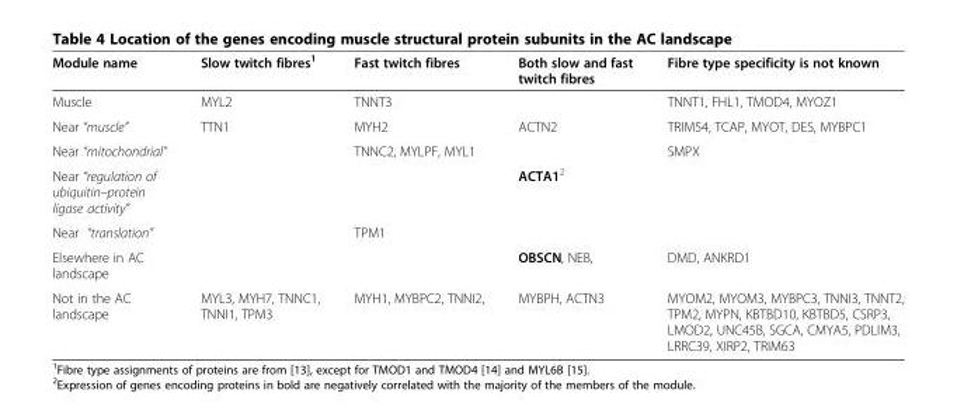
<table><thead><tr><td>Module name</td><td>Slow twitch fibres<sup>1</sup></td><td>Fast twitch fibres</td><td>Both slow and fast twitch fibres</td><td>Fibre type specificity is not known</td></tr></thead><tbody><tr><td>Muscle</td><td>MYL2</td><td>TNNT3</td><td></td><td>TNNT1, FHL1, TMOD4, MYOZ1</td></tr><tr><td>Near “muscle”</td><td>TTN1</td><td>MYH2</td><td>ACTN2</td><td>TRIM54, TCAP, MYOT, DES, MYBPC1</td></tr><tr><td>Near “mitochondrial”</td><td></td><td>TNNC2, MYLPF, MYL1</td><td></td><td>SMPX</td></tr><tr><td>Near “regulation of ubiquitin–protein ligase activity”</td><td></td><td></td><td>ACTA1<sup>2</sup></td><td></td></tr><tr><td>Near “translation”</td><td></td><td>TPM1</td><td></td><td></td></tr><tr><td>Elsewhere in AC landscape</td><td></td><td></td><td>OBSCN, NEB,</td><td>DMD, ANKRD1</td></tr><tr><td>Not in the AC landscape</td><td>MYL3, MYH7, TNNC1, TNNI1, TPM3</td><td>MYH1, MYBPC2, TNNI2,</td><td>MYBPH, ACTN3</td><td>MYOM2, MYOM3, MYBPC3, TNNI3, TNNT2, TPM2, MYPN, KBTBD10, KBTBD5, CSRP3, LMOD2, UNC45B, SGCA, CMYA5, PDLIM3, LRRC39, XIRP2, TRIM63</td></tr></tbody></table>